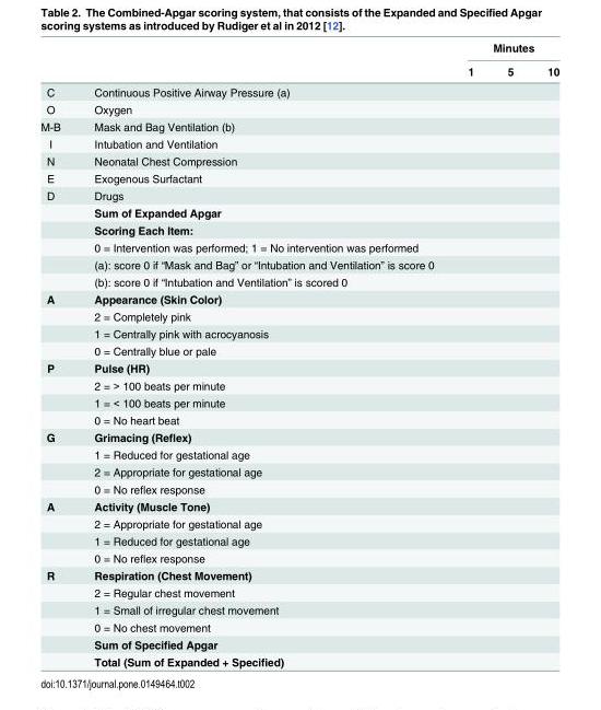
<table><thead><tr><td rowspan="2"></td><td rowspan="2"></td><td colspan="3">Minutes</td></tr><tr><td>1</td><td>5</td><td>10</td></tr></thead><tbody><tr><td>C</td><td>Continuous Positive Airway Pressure (a)</td><td></td><td></td><td></td></tr><tr><td>O</td><td>Oxygen</td><td></td><td></td><td></td></tr><tr><td>M-B</td><td>Mask and Bag Ventilation (b)</td><td></td><td></td><td></td></tr><tr><td>I</td><td>Intubation and Ventilation</td><td></td><td></td><td></td></tr><tr><td>N</td><td>Neonatal Chest Compression</td><td></td><td></td><td></td></tr><tr><td>E</td><td>Exogenous Surfactant</td><td></td><td></td><td></td></tr><tr><td rowspan="6">D</td><td>Drugs</td><td></td><td></td><td></td></tr><tr><td>Sum of Expanded Apgar</td><td></td><td></td><td></td></tr><tr><td>Scoring Each Item:</td><td></td><td></td><td></td></tr><tr><td>0 = Intervention was performed; 1 = No intervention was performed</td><td></td><td></td><td></td></tr><tr><td>(a): score 0 if “Mask and Bag” or “Intubation and Ventilation” is score 0</td><td></td><td></td><td></td></tr><tr><td>(b): score 0 if “Intubation and Ventilation” is scored 0</td><td></td><td></td><td></td></tr><tr><td rowspan="4">A</td><td>Appearance (Skin Color)</td><td></td><td></td><td></td></tr><tr><td>2 = Completely pink</td><td></td><td></td><td></td></tr><tr><td>1 = Centrally pink with acrocyanosis</td><td></td><td></td><td></td></tr><tr><td>0 = Centrally blue or pale</td><td></td><td></td><td></td></tr><tr><td rowspan="4">P</td><td>Pulse (HR)</td><td></td><td></td><td></td></tr><tr><td>2 = &gt; 100 beats per minute</td><td></td><td></td><td></td></tr><tr><td>1 = &lt; 100 beats per minute</td><td></td><td></td><td></td></tr><tr><td>0 = No heart beat</td><td></td><td></td><td></td></tr><tr><td rowspan="4">G</td><td>Grimacing (Reflex)</td><td></td><td></td><td></td></tr><tr><td>1 = Reduced for gestational age</td><td></td><td></td><td></td></tr><tr><td>2 = Appropriate for gestational age</td><td></td><td></td><td></td></tr><tr><td>0 = No reflex response</td><td></td><td></td><td></td></tr><tr><td rowspan="4">A</td><td>Activity (Muscle Tone)</td><td></td><td></td><td></td></tr><tr><td>2 = Appropriate for gestational age</td><td></td><td></td><td></td></tr><tr><td>1 = Reduced for gestational age</td><td></td><td></td><td></td></tr><tr><td>0 = No reflex response</td><td></td><td></td><td></td></tr><tr><td rowspan="6">R</td><td>Respiration (Chest Movement)</td><td></td><td></td><td></td></tr><tr><td>2 = Regular chest movement</td><td></td><td></td><td></td></tr><tr><td>1 = Small of irregular chest movement</td><td></td><td></td><td></td></tr><tr><td>0 = No chest movement</td><td></td><td></td><td></td></tr><tr><td>Sum of Specified Apgar</td><td></td><td></td><td></td></tr><tr><td>Total (Sum of Expanded + Specified)</td><td></td><td></td><td></td></tr></tbody></table>